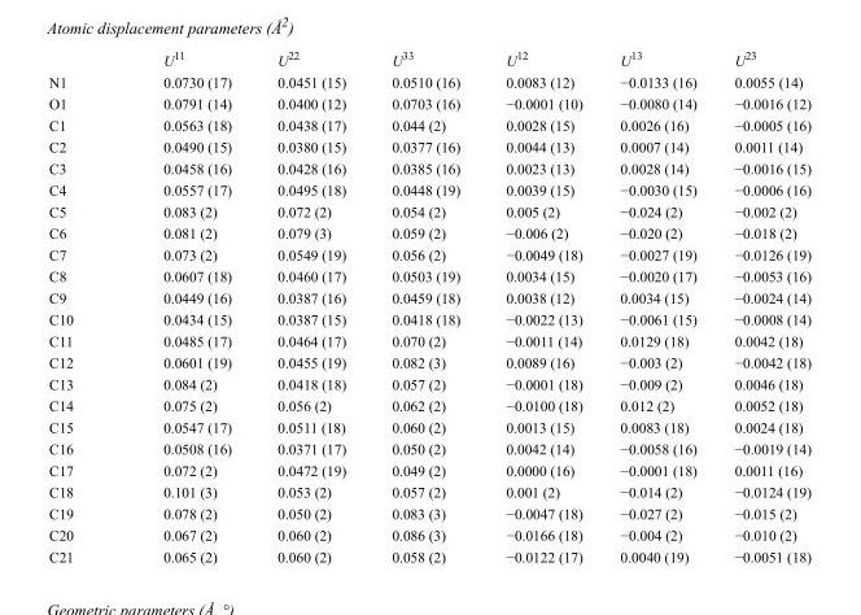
<table><thead><tr><td></td><td>U<sup>11</sup></td><td>U<sup>22</sup></td><td>U<sup>33</sup></td><td>U<sup>12</sup></td><td>U<sup>13</sup></td><td>U<sup>23</sup></td></tr></thead><tbody><tr><td>N1</td><td>0.0730 (17)</td><td>0.0451 (15)</td><td>0.0510 (16)</td><td>0.0083 (12)</td><td>−0.0133 (16)</td><td>0.0055 (14)</td></tr><tr><td>O1</td><td>0.0791 (14)</td><td>0.0400 (12)</td><td>0.0703 (16)</td><td>−0.0001 (10)</td><td>−0.0080 (14)</td><td>−0.0016 (12)</td></tr><tr><td>C1</td><td>0.0563 (18)</td><td>0.0438 (17)</td><td>0.044 (2)</td><td>0.0028 (15)</td><td>0.0026 (16)</td><td>−0.0005 (16)</td></tr><tr><td>C2</td><td>0.0490 (15)</td><td>0.0380 (15)</td><td>0.0377 (16)</td><td>0.0044 (13)</td><td>0.0007 (14)</td><td>0.0011 (14)</td></tr><tr><td>C3</td><td>0.0458 (16)</td><td>0.0428 (16)</td><td>0.0385 (16)</td><td>0.0023 (13)</td><td>0.0028 (14)</td><td>−0.0016 (15)</td></tr><tr><td>C4</td><td>0.0557 (17)</td><td>0.0495 (18)</td><td>0.0448 (19)</td><td>0.0039 (15)</td><td>−0.0030 (15)</td><td>−0.0006 (16)</td></tr><tr><td>C5</td><td>0.083 (2)</td><td>0.072 (2)</td><td>0.054 (2)</td><td>0.005 (2)</td><td>−0.024 (2)</td><td>−0.002 (2)</td></tr><tr><td>C6</td><td>0.081 (2)</td><td>0.079 (3)</td><td>0.059 (2)</td><td>−0.006 (2)</td><td>−0.020 (2)</td><td>−0.018 (2)</td></tr><tr><td>C7</td><td>0.073 (2)</td><td>0.0549 (19)</td><td>0.056 (2)</td><td>−0.0049 (18)</td><td>−0.0027 (19)</td><td>−0.0126 (19)</td></tr><tr><td>C8</td><td>0.0607 (18)</td><td>0.0460 (17)</td><td>0.0503 (19)</td><td>0.0034 (15)</td><td>−0.0020 (17)</td><td>−0.0053 (16)</td></tr><tr><td>C9</td><td>0.0449 (16)</td><td>0.0387 (16)</td><td>0.0459 (18)</td><td>0.0038 (12)</td><td>0.0034 (15)</td><td>−0.0024 (14)</td></tr><tr><td>C10</td><td>0.0434 (15)</td><td>0.0387 (15)</td><td>0.0418 (18)</td><td>−0.0022 (13)</td><td>−0.0061 (15)</td><td>−0.0008 (14)</td></tr><tr><td>C11</td><td>0.0485 (17)</td><td>0.0464 (17)</td><td>0.070 (2)</td><td>−0.0011 (14)</td><td>0.0129 (18)</td><td>0.0042 (18)</td></tr><tr><td>C12</td><td>0.0601 (19)</td><td>0.0455 (19)</td><td>0.082 (3)</td><td>0.0089 (16)</td><td>−0.003 (2)</td><td>−0.0042 (18)</td></tr><tr><td>C13</td><td>0.084 (2)</td><td>0.0418 (18)</td><td>0.057 (2)</td><td>−0.0001 (18)</td><td>−0.009 (2)</td><td>0.0046 (18)</td></tr><tr><td>C14</td><td>0.075 (2)</td><td>0.056 (2)</td><td>0.062 (2)</td><td>−0.0100 (18)</td><td>0.012 (2)</td><td>0.0052 (18)</td></tr><tr><td>C15</td><td>0.0547 (17)</td><td>0.0511 (18)</td><td>0.060 (2)</td><td>0.0013 (15)</td><td>0.0083 (18)</td><td>0.0024 (18)</td></tr><tr><td>C16</td><td>0.0508 (16)</td><td>0.0371 (17)</td><td>0.050 (2)</td><td>0.0042 (14)</td><td>−0.0058 (16)</td><td>−0.0019 (14)</td></tr><tr><td>C17</td><td>0.072 (2)</td><td>0.0472 (19)</td><td>0.049 (2)</td><td>0.0000 (16)</td><td>−0.0001 (18)</td><td>0.0011 (16)</td></tr><tr><td>C18</td><td>0.101 (3)</td><td>0.053 (2)</td><td>0.057 (2)</td><td>0.001 (2)</td><td>−0.014 (2)</td><td>−0.0124 (19)</td></tr><tr><td>C19</td><td>0.078 (2)</td><td>0.050 (2)</td><td>0.083 (3)</td><td>−0.0047 (18)</td><td>−0.027 (2)</td><td>−0.015 (2)</td></tr><tr><td>C20</td><td>0.067 (2)</td><td>0.060 (2)</td><td>0.086 (3)</td><td>−0.0166 (18)</td><td>−0.004 (2)</td><td>−0.010 (2)</td></tr><tr><td>C21</td><td>0.065 (2)</td><td>0.060 (2)</td><td>0.058 (2)</td><td>−0.0122 (17)</td><td>0.0040 (19)</td><td>−0.0051 (18)</td></tr></tbody></table>